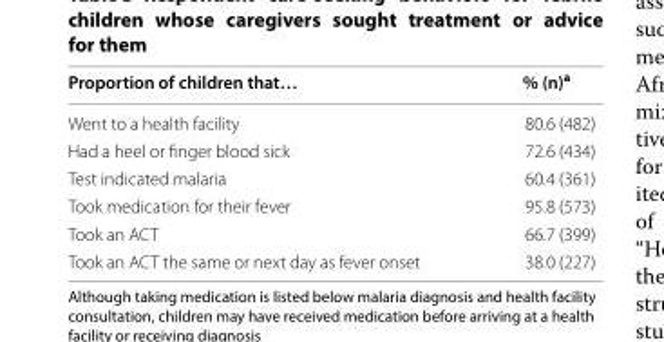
<table><thead><tr><td>Proportion of children that…</td><td>% (n)<sup>a</sup></td></tr></thead><tbody><tr><td>Went to a health facility</td><td>80.6 (482)</td></tr><tr><td>Had a heel or finger blood sick</td><td>72.6 (434)</td></tr><tr><td>Test indicated malaria</td><td>60.4 (361)</td></tr><tr><td>Took medication for their fever</td><td>95.8 (573)</td></tr><tr><td>Took an ACT</td><td>66.7 (399)</td></tr><tr><td>Took an ACT the same or next day as fever onset</td><td>38.0 (227)</td></tr></tbody></table>